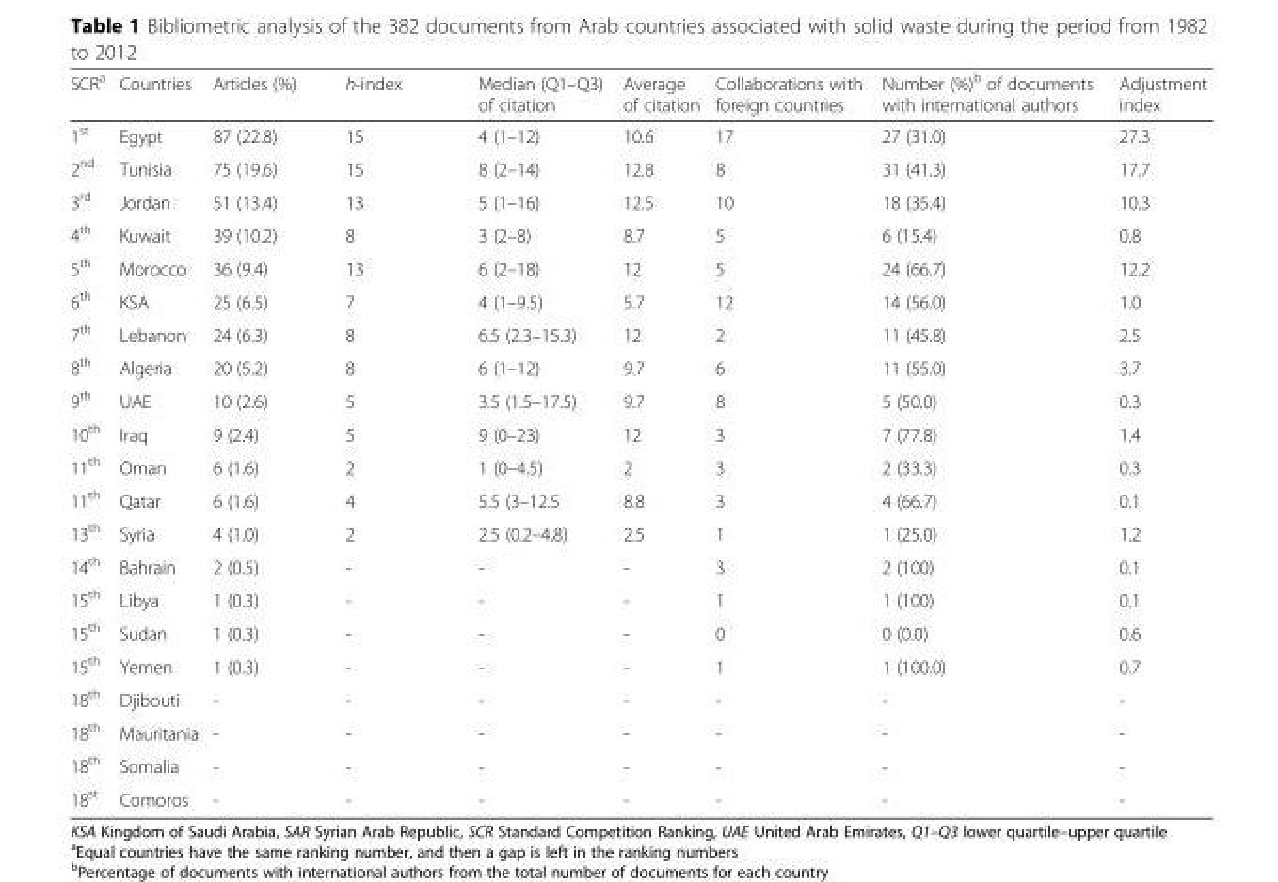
<table><thead><tr><td>SCR<sup>a</sup></td><td>Countries</td><td>Articles (%)</td><td>h-index</td><td>Median (Q1–Q3) of citation</td><td>Average of citation</td><td>Collaborations with foreign countries</td><td>Number (%)<sup>b</sup> of documents with international authors</td><td>Adjustment index</td></tr></thead><tbody><tr><td>1<sup>st</sup></td><td>Egypt</td><td>87 (22.8)</td><td>15</td><td>4 (1–12)</td><td>10.6</td><td>17</td><td>27 (31.0)</td><td>27.3</td></tr><tr><td>2<sup>nd</sup></td><td>Tunisia</td><td>75 (19.6)</td><td>15</td><td>8 (2–14)</td><td>12.8</td><td>8</td><td>31 (41.3)</td><td>17.7</td></tr><tr><td>3<sup>rd</sup></td><td>Jordan</td><td>51 (13.4)</td><td>13</td><td>5 (1–16)</td><td>12.5</td><td>10</td><td>18 (35.4)</td><td>10.3</td></tr><tr><td>4<sup>th</sup></td><td>Kuwait</td><td>39 (10.2)</td><td>8</td><td>3 (2–8)</td><td>8.7</td><td>5</td><td>6 (15.4)</td><td>0.8</td></tr><tr><td>5<sup>th</sup></td><td>Morocco</td><td>36 (9.4)</td><td>13</td><td>6 (2–18)</td><td>12</td><td>5</td><td>24 (66.7)</td><td>12.2</td></tr><tr><td>6<sup>th</sup></td><td>KSA</td><td>25 (6.5)</td><td>7</td><td>4 (1–9.5)</td><td>5.7</td><td>12</td><td>14 (56.0)</td><td>1.0</td></tr><tr><td>7<sup>th</sup></td><td>Lebanon</td><td>24 (6.3)</td><td>8</td><td>6.5 (2.3–15.3)</td><td>12</td><td>2</td><td>11 (45.8)</td><td>2.5</td></tr><tr><td>8<sup>th</sup></td><td>Algeria</td><td>20 (5.2)</td><td>8</td><td>6 (1–12)</td><td>9.7</td><td>6</td><td>11 (55.0)</td><td>3.7</td></tr><tr><td>9<sup>th</sup></td><td>UAE</td><td>10 (2.6)</td><td>5</td><td>3.5 (1.5–17.5)</td><td>9.7</td><td>8</td><td>5 (50.0)</td><td>0.3</td></tr><tr><td>10<sup>th</sup></td><td>Iraq</td><td>9 (2.4)</td><td>5</td><td>9 (0–23)</td><td>12</td><td>3</td><td>7 (77.8)</td><td>1.4</td></tr><tr><td>11<sup>th</sup></td><td>Oman</td><td>6 (1.6)</td><td>2</td><td>1 (0–4.5)</td><td>2</td><td>3</td><td>2 (33.3)</td><td>0.3</td></tr><tr><td>11<sup>th</sup></td><td>Qatar</td><td>6 (1.6)</td><td>4</td><td>5.5 (3–12.5</td><td>8.8</td><td>3</td><td>4 (66.7)</td><td>0.1</td></tr><tr><td>13<sup>th</sup></td><td>Syria</td><td>4 (1.0)</td><td>2</td><td>2.5 (0.2–4.8)</td><td>2.5</td><td>1</td><td>1 (25.0)</td><td>1.2</td></tr><tr><td>14<sup>th</sup></td><td>Bahrain</td><td>2 (0.5)</td><td>-</td><td>-</td><td>-</td><td>3</td><td>2 (100)</td><td>0.1</td></tr><tr><td>15<sup>th</sup></td><td>Libya</td><td>1 (0.3)</td><td>-</td><td>-</td><td>-</td><td>1</td><td>1 (100)</td><td>0.1</td></tr><tr><td>15<sup>th</sup></td><td>Sudan</td><td>1 (0.3)</td><td>-</td><td>-</td><td>-</td><td>0</td><td>0 (0.0)</td><td>0.6</td></tr><tr><td>15<sup>th</sup></td><td>Yemen</td><td>1 (0.3)</td><td>-</td><td>-</td><td>-</td><td>1</td><td>1 (100.0)</td><td>0.7</td></tr><tr><td>18<sup>th</sup></td><td>Djibouti</td><td>-</td><td>-</td><td>-</td><td>-</td><td>-</td><td>-</td><td>-</td></tr><tr><td>18<sup>th</sup></td><td>Mauritania</td><td>-</td><td>-</td><td>-</td><td>-</td><td>-</td><td>-</td><td>-</td></tr><tr><td>18<sup>th</sup></td><td>Somalia</td><td>-</td><td>-</td><td>-</td><td>-</td><td>-</td><td>-</td><td>-</td></tr><tr><td>18<sup>st</sup></td><td>Comoros</td><td>-</td><td>-</td><td>-</td><td>-</td><td>-</td><td>-</td><td>-</td></tr></tbody></table>